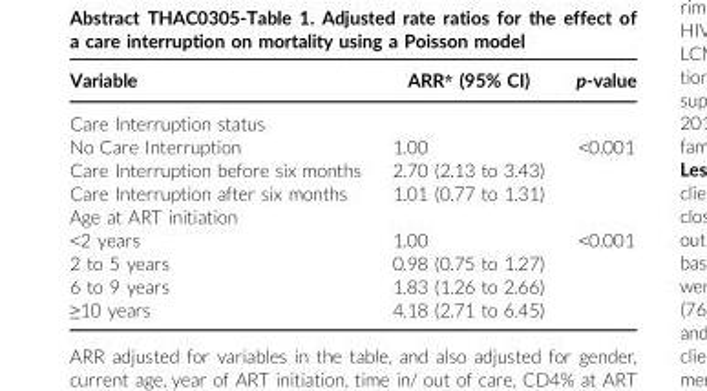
<table><thead><tr><td>Variable</td><td>ARR* (95% CI)</td><td>p-value</td></tr></thead><tbody><tr><td colspan="3">Care Interruption status</td></tr><tr><td>No Care Interruption</td><td>1.00</td><td>&lt;0.001</td></tr><tr><td>Care Interruption before six months</td><td>2.70 (2.13 to 3.43)</td><td></td></tr><tr><td>Care Interruption after six months</td><td>1.01 (0.77 to 1.31)</td><td></td></tr><tr><td colspan="3">Age at ART initiation</td></tr><tr><td>&lt;2 years</td><td>1.00</td><td>&lt;0.001</td></tr><tr><td>2 to 5 years</td><td>0.98 (0.75 to 1.27)</td><td></td></tr><tr><td>6 to 9 years</td><td>1.83 (1.26 to 2.66)</td><td></td></tr><tr><td>≥10 years</td><td>4.18 (2.71 to 6.45)</td><td></td></tr></tbody></table>